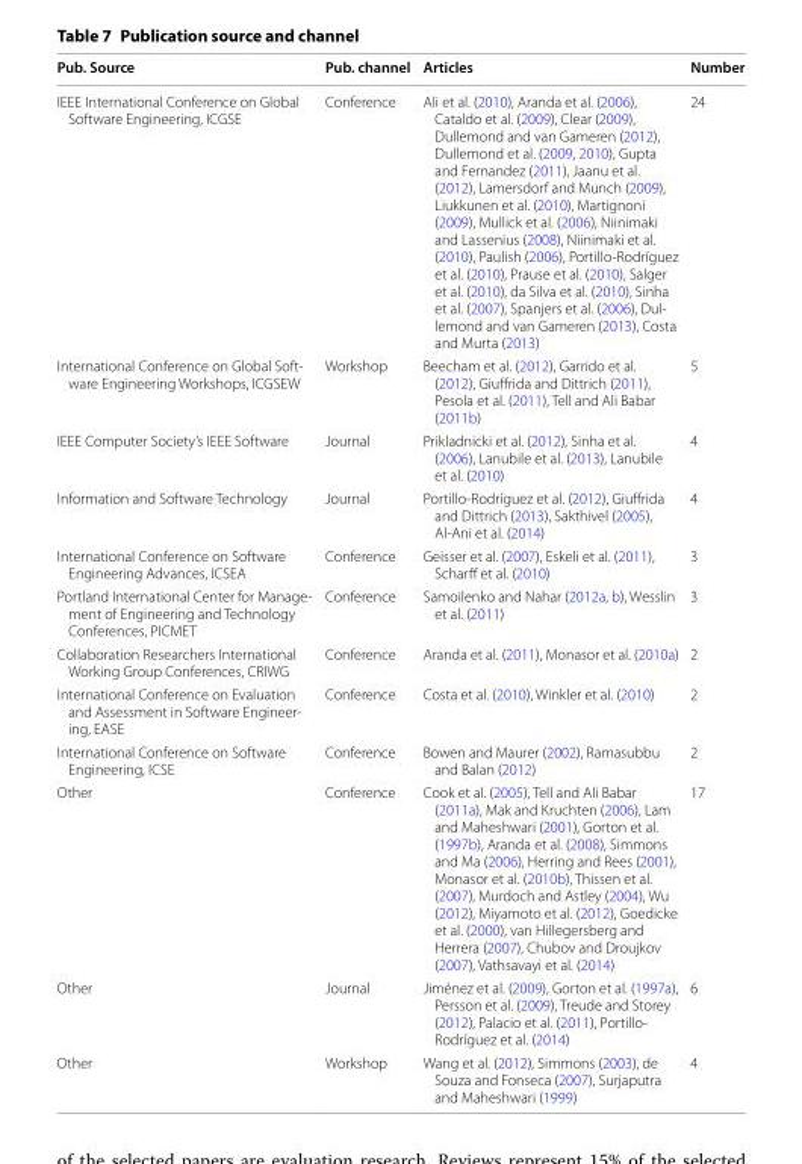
<table><thead><tr><td>Pub. Source</td><td>Pub. channel</td><td>Articles</td><td>Number</td></tr></thead><tbody><tr><td>IEEE International Conference on Global Software Engineering, ICGSE</td><td>Conference</td><td>Ali et al. (2010), Aranda et al. (2006), Cataldo et al. (2009), Clear (2009), Dullemond and van Gameren (2012), Dullemond et al. (2009, 2010), Gupta and Fernandez (2011), Jaanu et al. (2012), Lamersdorf and Munch (2009), Liukkunen et al. (2010), Martignoni (2009), Mullick et al. (2006), Niinimaki and Lassenius (2008), Niinimaki et al. (2010), Paulish (2006), Portillo‑Rodríguez et al. (2010), Prause et al. (2010), Salger et al. (2010), da Silva et al. (2010), Sinha et al. (2007), Spanjers et al. (2006), Dul‑ lemond and van Gameren (2013), Costa and Murta (2013)</td><td>24</td></tr><tr><td>International Conference on Global Soft‑ ware Engineering Workshops, ICGSEW</td><td>Workshop</td><td>Beecham et al. (2012), Garrido et al. (2012), Giuffrida and Dittrich (2011), Pesola et al. (2011), Tell and Ali Babar (2011b)</td><td>5</td></tr><tr><td>IEEE Computer Society’s IEEE Software</td><td>Journal</td><td>Prikladnicki et al. (2012), Sinha et al. (2006), Lanubile et al. (2013), Lanubile et al. (2010)</td><td>4</td></tr><tr><td>Information and Software Technology</td><td>Journal</td><td>Portillo‑Rodríguez et al. (2012), Giuffrida and Dittrich (2013), Sakthivel (2005), Al‑Ani et al. (2014)</td><td>4</td></tr><tr><td>International Conference on Software Engineering Advances, ICSEA</td><td>Conference</td><td>Geisser et al. (2007), Eskeli et al. (2011), Scharff et al. (2010)</td><td>3</td></tr><tr><td>Portland International Center for Manage‑ ment of Engineering and Technology Conferences, PICMET</td><td>Conference</td><td>Samoilenko and Nahar (2012a, b), Wesslin et al. (2011)</td><td>3</td></tr><tr><td>Collaboration Researchers International Working Group Conferences, CRIWG</td><td>Conference</td><td>Aranda et al. (2011), Monasor et al. (2010a)</td><td>2</td></tr><tr><td>International Conference on Evaluation and Assessment in Software Engineer‑ ing, EASE</td><td>Conference</td><td>Costa et al. (2010), Winkler et al. (2010)</td><td>2</td></tr><tr><td>International Conference on Software Engineering, ICSE</td><td>Conference</td><td>Bowen and Maurer (2002), Ramasubbu and Balan (2012)</td><td>2</td></tr><tr><td>Other</td><td>Conference</td><td>Cook et al. (2005), Tell and Ali Babar (2011a), Mak and Kruchten (2006), Lam and Maheshwari (2001), Gorton et al. (1997b), Aranda et al. (2008), Simmons and Ma (2006), Herring and Rees (2001), Monasor et al. (2010b), Thissen et al. (2007), Murdoch and Astley (2004), Wu (2012), Miyamoto et al. (2012), Goedicke et al. (2000), van Hillegersberg and Herrera (2007), Chubov and Droujkov (2007), Vathsavayi et al. (2014)</td><td>17</td></tr><tr><td>Other</td><td>Journal</td><td>Jiménez et al. (2009), Gorton et al. (1997a), Persson et al. (2009), Treude and Storey (2012), Palacio et al. (2011), Portillo‑ Rodríguez et al. (2014)</td><td>6</td></tr><tr><td>Other</td><td>Workshop</td><td>Wang et al. (2012), Simmons (2003), de Souza and Fonseca (2007), Surjaputra and Maheshwari (1999)</td><td>4</td></tr></tbody></table>